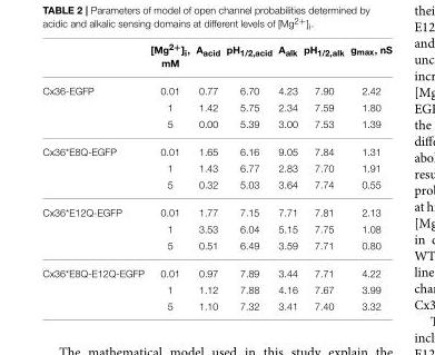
<table><thead><tr><td></td><td>[Mg<sup>2+</sup>]<sub>i</sub>, mM</td><td>A<sub>acid</sub></td><td>pH<sub>1/2,acid</sub></td><td>A<sub>alk</sub></td><td>pH<sub>1/2,alk</sub></td><td>g<sub>max</sub>, nS</td></tr></thead><tbody><tr><td rowspan="3">Cx36-EGFP</td><td>0.01</td><td>0.77</td><td>6.70</td><td>4.23</td><td>7.90</td><td>2.42</td></tr><tr><td>1</td><td>1.42</td><td>5.75</td><td>2.34</td><td>7.59</td><td>1.80</td></tr><tr><td>5</td><td>0.00</td><td>5.39</td><td>3.00</td><td>7.53</td><td>1.39</td></tr><tr><td rowspan="3">Cx36*E8Q-EGFP</td><td>0.01</td><td>1.65</td><td>6.16</td><td>9.05</td><td>7.84</td><td>1.31</td></tr><tr><td>1</td><td>1.43</td><td>6.77</td><td>2.83</td><td>7.70</td><td>1.91</td></tr><tr><td>5</td><td>0.32</td><td>5.03</td><td>3.64</td><td>7.74</td><td>0.55</td></tr><tr><td rowspan="3">Cx36*E12Q-EGFP</td><td>0.01</td><td>1.77</td><td>7.15</td><td>7.71</td><td>7.81</td><td>2.13</td></tr><tr><td>1</td><td>3.53</td><td>6.04</td><td>5.15</td><td>7.75</td><td>1.08</td></tr><tr><td>5</td><td>0.51</td><td>6.49</td><td>3.59</td><td>7.71</td><td>0.80</td></tr><tr><td rowspan="3">Cx36*E8Q-E12Q-EGFP</td><td>0.01</td><td>0.97</td><td>7.89</td><td>3.44</td><td>7.71</td><td>4.22</td></tr><tr><td>1</td><td>1.12</td><td>7.88</td><td>4.16</td><td>7.67</td><td>3.99</td></tr><tr><td>5</td><td>1.10</td><td>7.32</td><td>3.41</td><td>7.40</td><td>3.32</td></tr></tbody></table>